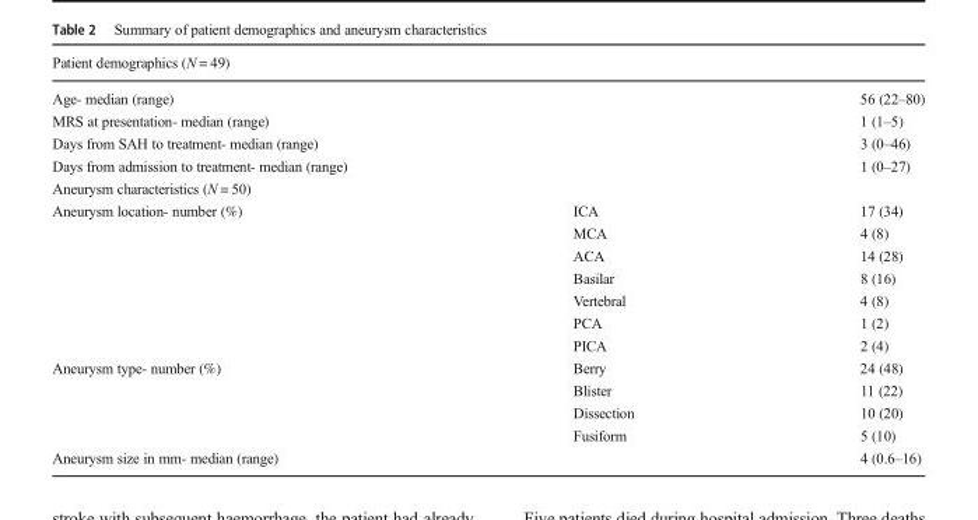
<table><thead><tr><td colspan="3">Patient demographics (N = 49)</td></tr><tr><td>Age- median (range)</td><td></td><td>56 (22–80)</td></tr></thead><tbody><tr><td>MRS at presentation- median (range)</td><td></td><td>1 (1–5)</td></tr><tr><td>Days from SAH to treatment- median (range)</td><td></td><td>3 (0–46)</td></tr><tr><td>Days from admission to treatment- median (range)</td><td></td><td>1 (0–27)</td></tr><tr><td colspan="3">Aneurysm characteristics (N = 50)</td></tr><tr><td rowspan="7">Aneurysm location- number (%)</td><td>ICA</td><td>17 (34)</td></tr><tr><td>MCA</td><td>4 (8)</td></tr><tr><td>ACA</td><td>14 (28)</td></tr><tr><td>Basilar</td><td>8 (16)</td></tr><tr><td>Vertebral</td><td>4 (8)</td></tr><tr><td>PCA</td><td>1 (2)</td></tr><tr><td>PICA</td><td>2 (4)</td></tr><tr><td rowspan="4">Aneurysm type- number (%)</td><td>Berry</td><td>24 (48)</td></tr><tr><td>Blister</td><td>11 (22)</td></tr><tr><td>Dissection</td><td>10 (20)</td></tr><tr><td>Fusiform</td><td>5 (10)</td></tr><tr><td>Aneurysm size in mm- median (range)</td><td></td><td>4 (0.6–16)</td></tr></tbody></table>